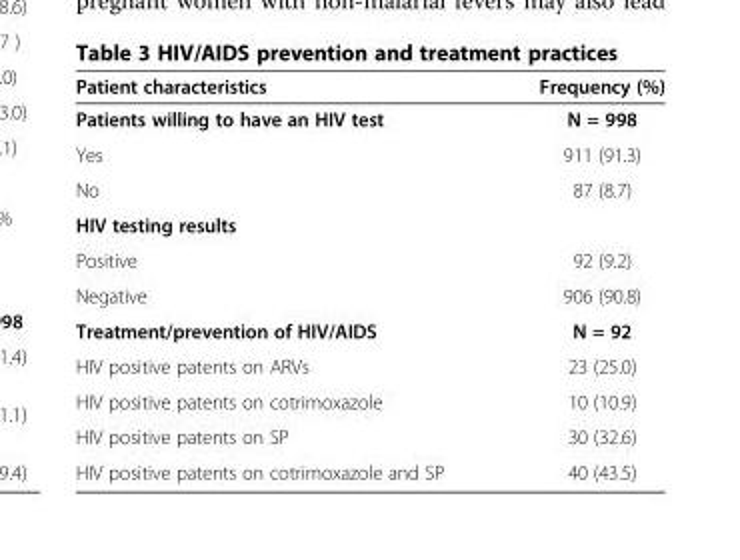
<table><thead><tr><td>Patient characteristics</td><td>Frequency (%)</td></tr></thead><tbody><tr><td>Patients willing to have an HIV test</td><td>N = 998</td></tr><tr><td>Yes</td><td>911 (91.3)</td></tr><tr><td>No</td><td>87 (8.7)</td></tr><tr><td colspan="2">HIV testing results</td></tr><tr><td>Positive</td><td>92 (9.2)</td></tr><tr><td>Negative</td><td>906 (90.8)</td></tr><tr><td>Treatment/prevention of HIV/AIDS</td><td>N = 92</td></tr><tr><td>HIV positive patents on ARVs</td><td>23 (25.0)</td></tr><tr><td>HIV positive patents on cotrimoxazole</td><td>10 (10.9)</td></tr><tr><td>HIV positive patents on SP</td><td>30 (32.6)</td></tr><tr><td>HIV positive patents on cotrimoxazole and SP</td><td>40 (43.5)</td></tr></tbody></table>